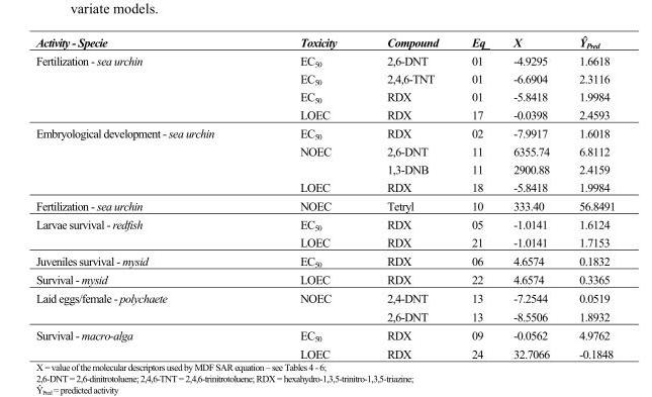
<table><thead><tr><td>Activity - Specie</td><td>Toxicity</td><td>Compound</td><td>Eq_</td><td>X</td><td>Ŷ<sub>Pred</sub></td></tr></thead><tbody><tr><td rowspan="4">Fertilization - sea urchin</td><td>EC<sub>50</sub></td><td>2,6-DNT</td><td>01</td><td>-4.9295</td><td>1.6618</td></tr><tr><td>EC<sub>50</sub></td><td>2,4,6-TNT</td><td>01</td><td>-6.6904</td><td>2.3116</td></tr><tr><td>EC<sub>50</sub></td><td>RDX</td><td>01</td><td>-5.8418</td><td>1.9984</td></tr><tr><td>LOEC</td><td>RDX</td><td>17</td><td>-0.0398</td><td>2.4593</td></tr><tr><td rowspan="4">Embryological development - sea urchin</td><td>EC<sub>50</sub></td><td>RDX</td><td>02</td><td>-7.9917</td><td>1.6018</td></tr><tr><td>NOEC</td><td>2,6-DNT</td><td>11</td><td>6355.74</td><td>6.8112</td></tr><tr><td></td><td>1,3-DNB</td><td>11</td><td>2900.88</td><td>2.4159</td></tr><tr><td>LOEC</td><td>RDX</td><td>18</td><td>-5.8418</td><td>1.9984</td></tr><tr><td>Fertilization - sea urchin</td><td>NOEC</td><td>Tetryl</td><td>10</td><td>333.40</td><td>56.8491</td></tr><tr><td rowspan="2">Larvae survival - redfish</td><td>EC<sub>50</sub></td><td>RDX</td><td>05</td><td>-1.0141</td><td>1.6124</td></tr><tr><td>LOEC</td><td>RDX</td><td>21</td><td>-1.0141</td><td>1.7153</td></tr><tr><td>Juveniles survival - mysid</td><td>EC<sub>50</sub></td><td>RDX</td><td>06</td><td>4.6574</td><td>0.1832</td></tr><tr><td>Survival - mysid</td><td>LOEC</td><td>RDX</td><td>22</td><td>4.6574</td><td>0.3365</td></tr><tr><td rowspan="2">Laid eggs/female - polychaete</td><td>NOEC</td><td>2,4-DNT</td><td>13</td><td>-7.2544</td><td>0.0519</td></tr><tr><td></td><td>2,6-DNT</td><td>13</td><td>-8.5506</td><td>1.8932</td></tr><tr><td rowspan="2">Survival - macro-alga</td><td>EC<sub>50</sub></td><td>RDX</td><td>09</td><td>-0.0562</td><td>4.9762</td></tr><tr><td>LOEC</td><td>RDX</td><td>24</td><td>32.7066</td><td>-0.1848</td></tr></tbody></table>